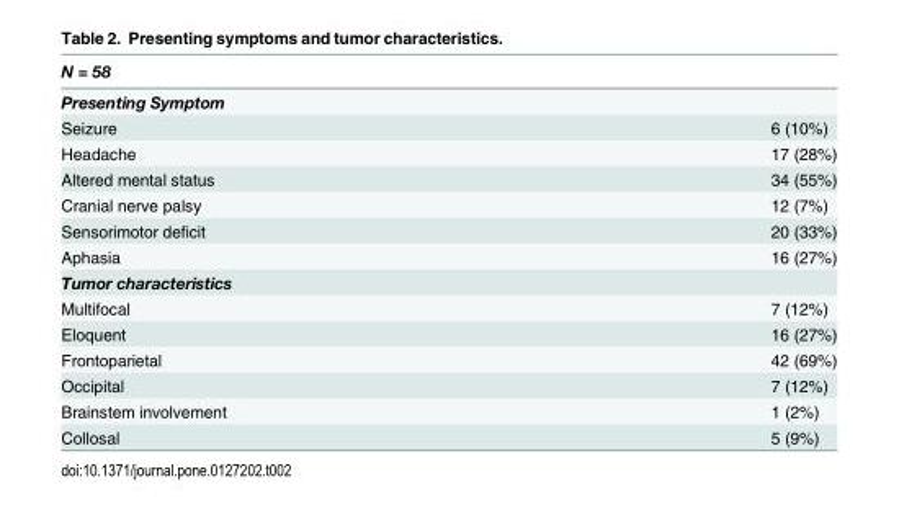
<table><thead><tr><td>N = 58</td><td></td></tr></thead><tbody><tr><td colspan="2">Presenting Symptom</td></tr><tr><td>Seizure</td><td>6 (10%)</td></tr><tr><td>Headache</td><td>17 (28%)</td></tr><tr><td>Altered mental status</td><td>34 (55%)</td></tr><tr><td>Cranial nerve palsy</td><td>12 (7%)</td></tr><tr><td>Sensorimotor deficit</td><td>20 (33%)</td></tr><tr><td>Aphasia</td><td>16 (27%)</td></tr><tr><td colspan="2">Tumor characteristics</td></tr><tr><td>Multifocal</td><td>7 (12%)</td></tr><tr><td>Eloquent</td><td>16 (27%)</td></tr><tr><td>Frontoparietal</td><td>42 (69%)</td></tr><tr><td>Occipital</td><td>7 (12%)</td></tr><tr><td>Brainstem involvement</td><td>1 (2%)</td></tr><tr><td>Collosal</td><td>5 (9%)</td></tr></tbody></table>